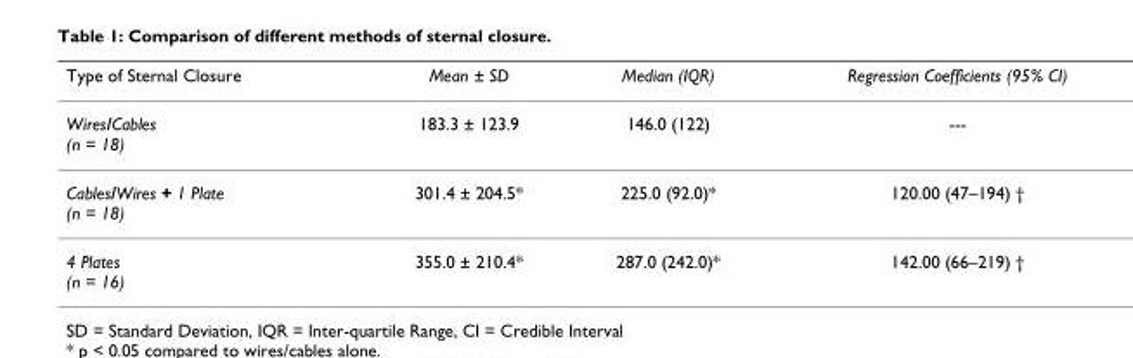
<table><thead><tr><td>Type of Sternal Closure</td><td>Mean ± SD</td><td>Median (IQR)</td><td>Regression Coefficients (95% CI)</td></tr></thead><tbody><tr><td>Wires/Cables (n = 18)</td><td>183.3 ± 123.9</td><td>146.0 (122)</td><td>---</td></tr><tr><td>Cables/Wires + 1 Plate (n = 18)</td><td>301.4 ± 204.5*</td><td>225.0 (92.0)*</td><td>120.00 (47–194) †</td></tr><tr><td>4 Plates (n = 16)</td><td>355.0 ± 210.4*</td><td>287.0 (242.0)*</td><td>142.00 (66–219) †</td></tr></tbody></table>